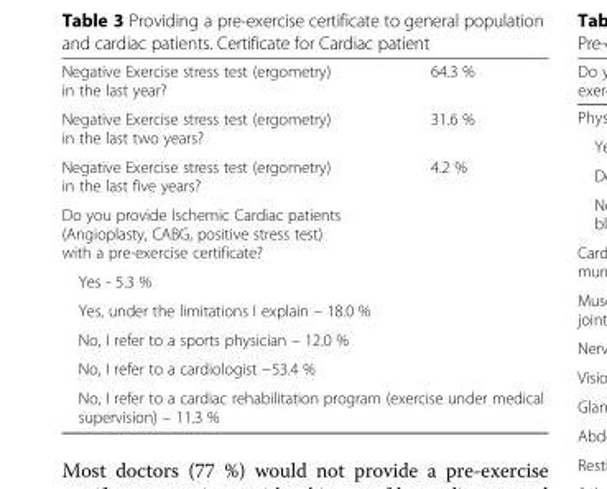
<table><tbody><tr><td>Negative Exercise stress test (ergometry) in the last year?</td><td>64.3 %</td></tr><tr><td>Negative Exercise stress test (ergometry) in the last two years?</td><td>31.6 %</td></tr><tr><td>Negative Exercise stress test (ergometry) in the last five years?</td><td>4.2 %</td></tr><tr><td colspan="2">Do you provide Ischemic Cardiac patients (Angioplasty, CABG, positive stress test) with a pre-exercise certificate?</td></tr><tr><td colspan="2">Yes - 5.3 %</td></tr><tr><td colspan="2">Yes, under the limitations I explain – 18.0 %</td></tr><tr><td colspan="2">No, I refer to a sports physician – 12.0 %</td></tr><tr><td colspan="2">No, I refer to a cardiologist −53.4 %</td></tr><tr><td colspan="2">No, I refer to a cardiac rehabilitation program (exercise under medical supervision) – 11.3 %</td></tr></tbody></table>